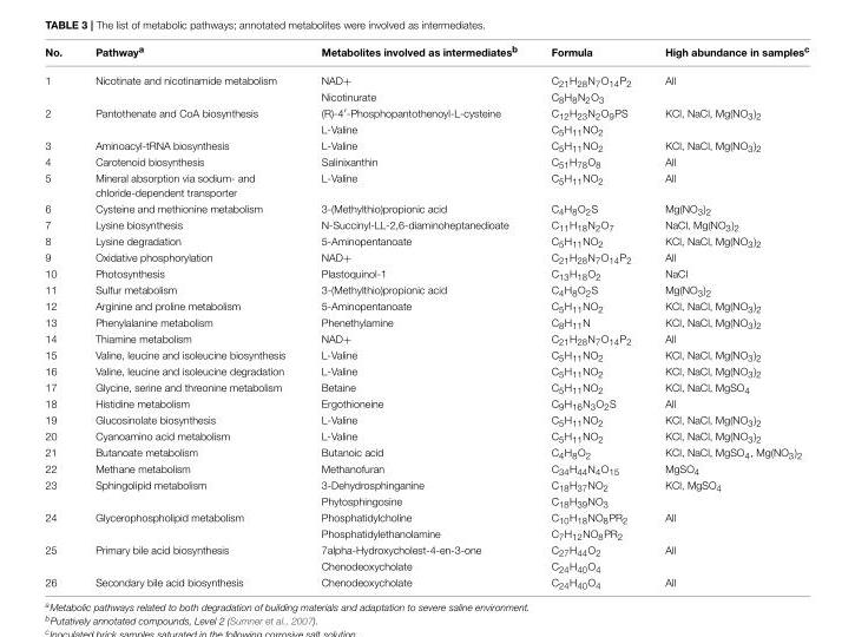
<table><thead><tr><td>No.</td><td>Pathway<sup>a</sup></td><td>Metabolites involved as intermediates<sup>b</sup></td><td>Formula</td><td>High abundance in samples<sup>c</sup></td></tr></thead><tbody><tr><td rowspan="2">1</td><td>Nicotinate and nicotinamide metabolism</td><td>NAD+</td><td>C<sub>21</sub>H<sub>28</sub>N<sub>7</sub>O<sub>14</sub>P<sub>2</sub></td><td>All</td></tr><tr><td></td><td>Nicotinurate</td><td>C<sub>8</sub>H<sub>8</sub>N<sub>2</sub>O<sub>3</sub></td><td></td></tr><tr><td rowspan="2">2</td><td>Pantothenate and CoA biosynthesis</td><td>(R)-4′-Phosphopantothenoyl-L-cysteine</td><td>C<sub>12</sub>H<sub>23</sub>N<sub>2</sub>O<sub>9</sub>PS</td><td>KCl, NaCl, Mg(NO<sub>3</sub>)<sub>2</sub></td></tr><tr><td></td><td>L-Valine</td><td>C<sub>5</sub>H<sub>11</sub>NO<sub>2</sub></td><td></td></tr><tr><td>3</td><td>Aminoacyl-tRNA biosynthesis</td><td>L-Valine</td><td>C<sub>5</sub>H<sub>11</sub>NO<sub>2</sub></td><td>KCl, NaCl, Mg(NO<sub>3</sub>)<sub>2</sub></td></tr><tr><td>4</td><td>Carotenoid biosynthesis</td><td>Salinixanthin</td><td>C<sub>51</sub>H<sub>78</sub>O<sub>8</sub></td><td>All</td></tr><tr><td>5</td><td>Mineral absorption via sodium- and chloride-dependent transporter</td><td>L-Valine</td><td>C<sub>5</sub>H<sub>11</sub>NO<sub>2</sub></td><td>All</td></tr><tr><td>6</td><td>Cysteine and methionine metabolism</td><td>3-(Methylthio)propionic acid</td><td>C<sub>4</sub>H<sub>8</sub>O<sub>2</sub>S</td><td>Mg(NO<sub>3</sub>)<sub>2</sub></td></tr><tr><td>7</td><td>Lysine biosynthesis</td><td>N-Succinyl-LL-2,6-diaminoheptanedioate</td><td>C<sub>11</sub>H<sub>18</sub>N<sub>2</sub>O<sub>7</sub></td><td>NaCl, Mg(NO<sub>3</sub>)<sub>2</sub></td></tr><tr><td>8</td><td>Lysine degradation</td><td>5-Aminopentanoate</td><td>C<sub>5</sub>H<sub>11</sub>NO<sub>2</sub></td><td>KCl, NaCl, Mg(NO<sub>3</sub>)<sub>2</sub></td></tr><tr><td>9</td><td>Oxidative phosphorylation</td><td>NAD+</td><td>C<sub>21</sub>H<sub>28</sub>N<sub>7</sub>O<sub>14</sub>P<sub>2</sub></td><td>All</td></tr><tr><td>10</td><td>Photosynthesis</td><td>Plastoquinol-1</td><td>C<sub>13</sub>H<sub>18</sub>O<sub>2</sub></td><td>NaCl</td></tr><tr><td>11</td><td>Sulfur metabolism</td><td>3-(Methylthio)propionic acid</td><td>C<sub>4</sub>H<sub>8</sub>O<sub>2</sub>S</td><td>Mg(NO<sub>3</sub>)<sub>2</sub></td></tr><tr><td>12</td><td>Arginine and proline metabolism</td><td>5-Aminopentanoate</td><td>C<sub>5</sub>H<sub>11</sub>NO<sub>2</sub></td><td>KCl, NaCl, Mg(NO<sub>3</sub>)<sub>2</sub></td></tr><tr><td>13</td><td>Phenylalanine metabolism</td><td>Phenethylamine</td><td>C<sub>8</sub>H<sub>11</sub>N</td><td>KCl, NaCl, Mg(NO<sub>3</sub>)<sub>2</sub></td></tr><tr><td>14</td><td>Thiamine metabolism</td><td>NAD+</td><td>C<sub>21</sub>H<sub>28</sub>N<sub>7</sub>O<sub>14</sub>P<sub>2</sub></td><td>All</td></tr><tr><td>15</td><td>Valine, leucine and isoleucine biosynthesis</td><td>L-Valine</td><td>C<sub>5</sub>H<sub>11</sub>NO<sub>2</sub></td><td>KCl, NaCl, Mg(NO<sub>3</sub>)<sub>2</sub></td></tr><tr><td>16</td><td>Valine, leucine and isoleucine degradation</td><td>L-Valine</td><td>C<sub>5</sub>H<sub>11</sub>NO<sub>2</sub></td><td>KCl, NaCl, Mg(NO<sub>3</sub>)<sub>2</sub></td></tr><tr><td>17</td><td>Glycine, serine and threonine metabolism</td><td>Betaine</td><td>C<sub>5</sub>H<sub>11</sub>NO<sub>2</sub></td><td>KCl, NaCl, MgSO<sub>4</sub></td></tr><tr><td>18</td><td>Histidine metabolism</td><td>Ergothioneine</td><td>C<sub>9</sub>H<sub>16</sub>N<sub>3</sub>O<sub>2</sub>S</td><td>All</td></tr><tr><td>19</td><td>Glucosinolate biosynthesis</td><td>L-Valine</td><td>C<sub>5</sub>H<sub>11</sub>NO<sub>2</sub></td><td>KCl, NaCl, Mg(NO<sub>3</sub>)<sub>2</sub></td></tr><tr><td>20</td><td>Cyanoamino acid metabolism</td><td>L-Valine</td><td>C<sub>5</sub>H<sub>11</sub>NO<sub>2</sub></td><td>KCl, NaCl, Mg(NO<sub>3</sub>)<sub>2</sub></td></tr><tr><td>21</td><td>Butanoate metabolism</td><td>Butanoic acid</td><td>C<sub>4</sub>H<sub>8</sub>O<sub>2</sub></td><td>KCl, NaCl, MgSO<sub>4</sub>, Mg(NO<sub>3</sub>)<sub>2</sub></td></tr><tr><td>22</td><td>Methane metabolism</td><td>Methanofuran</td><td>C<sub>34</sub>H<sub>44</sub>N<sub>4</sub>O<sub>15</sub></td><td>MgSO<sub>4</sub></td></tr><tr><td rowspan="2">23</td><td>Sphingolipid metabolism</td><td>3-Dehydrosphinganine</td><td>C<sub>18</sub>H<sub>37</sub>NO<sub>2</sub></td><td>KCl, MgSO<sub>4</sub></td></tr><tr><td></td><td>Phytosphingosine</td><td>C<sub>18</sub>H<sub>39</sub>NO<sub>3</sub></td><td></td></tr><tr><td rowspan="2">24</td><td>Glycerophospholipid metabolism</td><td>Phosphatidylcholine</td><td>C<sub>10</sub>H<sub>18</sub>NO<sub>8</sub>PR<sub>2</sub></td><td>All</td></tr><tr><td></td><td>Phosphatidylethanolamine</td><td>C<sub>7</sub>H<sub>12</sub>NO<sub>8</sub>PR<sub>2</sub></td><td></td></tr><tr><td rowspan="2">25</td><td>Primary bile acid biosynthesis</td><td>7alpha-Hydroxycholest-4-en-3-one</td><td>C<sub>27</sub>H<sub>44</sub>O<sub>2</sub></td><td>All</td></tr><tr><td></td><td>Chenodeoxycholate</td><td>C<sub>24</sub>H<sub>40</sub>O<sub>4</sub></td><td></td></tr><tr><td>26</td><td>Secondary bile acid biosynthesis</td><td>Chenodeoxycholate</td><td>C<sub>24</sub>H<sub>40</sub>O<sub>4</sub></td><td>All</td></tr></tbody></table>